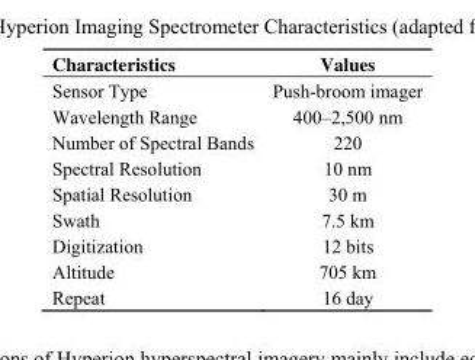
<table><thead><tr><td>Characteristics</td><td>Values</td></tr></thead><tbody><tr><td>Sensor Type</td><td>Push-broom imager</td></tr><tr><td>Wavelength Range</td><td>400–2,500 nm</td></tr><tr><td>Number of Spectral Bands</td><td>220</td></tr><tr><td>Spectral Resolution</td><td>10 nm</td></tr><tr><td>Spatial Resolution</td><td>30 m</td></tr><tr><td>Swath</td><td>7.5 km</td></tr><tr><td>Digitization</td><td>12 bits</td></tr><tr><td>Altitude</td><td>705 km</td></tr><tr><td>Repeat</td><td>16 day</td></tr></tbody></table>